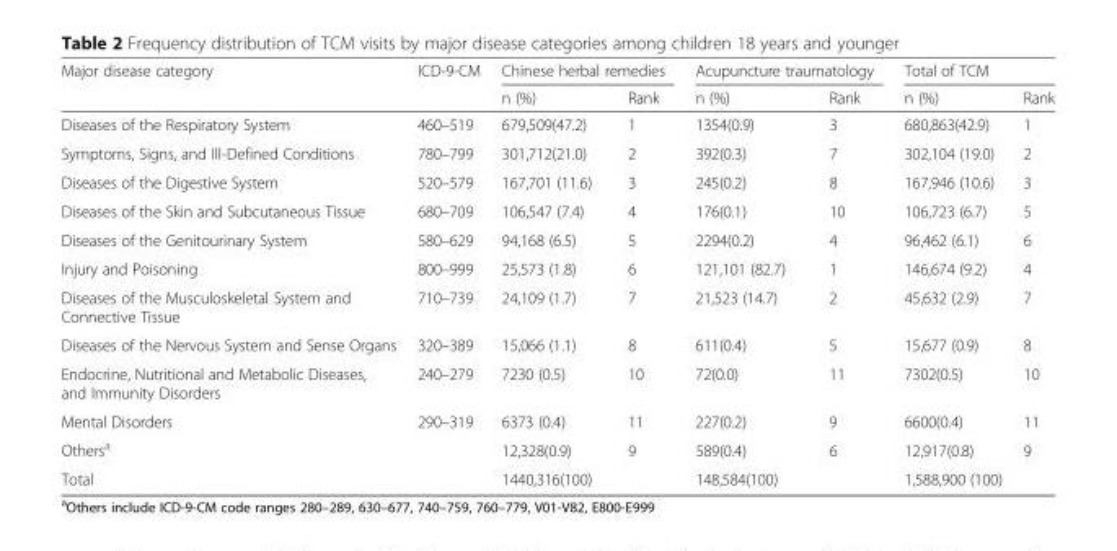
<table><thead><tr><td rowspan="2">Major disease category</td><td rowspan="2">ICD-9-CM</td><td colspan="2">Chinese herbal remedies</td><td colspan="2">Acupuncture traumatology</td><td colspan="2">Total of TCM</td></tr><tr><td>n (%)</td><td>Rank</td><td>n (%)</td><td>Rank</td><td>n (%)</td><td>Rank</td></tr></thead><tbody><tr><td>Diseases of the Respiratory System</td><td>460–519</td><td>679,509(47.2)</td><td>1</td><td>1354(0.9)</td><td>3</td><td>680,863(42.9)</td><td>1</td></tr><tr><td>Symptoms, Signs, and Ill-Defined Conditions</td><td>780–799</td><td>301,712(21.0)</td><td>2</td><td>392(0.3)</td><td>7</td><td>302,104 (19.0)</td><td>2</td></tr><tr><td>Diseases of the Digestive System</td><td>520–579</td><td>167,701 (11.6)</td><td>3</td><td>245(0.2)</td><td>8</td><td>167,946 (10.6)</td><td>3</td></tr><tr><td>Diseases of the Skin and Subcutaneous Tissue</td><td>680–709</td><td>106,547 (7.4)</td><td>4</td><td>176(0.1)</td><td>10</td><td>106,723 (6.7)</td><td>5</td></tr><tr><td>Diseases of the Genitourinary System</td><td>580–629</td><td>94,168 (6.5)</td><td>5</td><td>2294(0.2)</td><td>4</td><td>96,462 (6.1)</td><td>6</td></tr><tr><td>Injury and Poisoning</td><td>800–999</td><td>25,573 (1.8)</td><td>6</td><td>121,101 (82.7)</td><td>1</td><td>146,674 (9.2)</td><td>4</td></tr><tr><td>Diseases of the Musculoskeletal System and Connective Tissue</td><td>710–739</td><td>24,109 (1.7)</td><td>7</td><td>21,523 (14.7)</td><td>2</td><td>45,632 (2.9)</td><td>7</td></tr><tr><td>Diseases of the Nervous System and Sense Organs</td><td>320–389</td><td>15,066 (1.1)</td><td>8</td><td>611(0.4)</td><td>5</td><td>15,677 (0.9)</td><td>8</td></tr><tr><td>Endocrine, Nutritional and Metabolic Diseases, and Immunity Disorders</td><td>240–279</td><td>7230 (0.5)</td><td>10</td><td>72(0.0)</td><td>11</td><td>7302(0.5)</td><td>10</td></tr><tr><td>Mental Disorders</td><td>290–319</td><td>6373 (0.4)</td><td>11</td><td>227(0.2)</td><td>9</td><td>6600(0.4)</td><td>11</td></tr><tr><td>Others<sup>a</sup></td><td></td><td>12,328(0.9)</td><td>9</td><td>589(0.4)</td><td>6</td><td>12,917(0.8)</td><td>9</td></tr><tr><td>Total</td><td></td><td>1440,316(100)</td><td></td><td>148,584(100)</td><td></td><td>1,588,900 (100)</td><td></td></tr></tbody></table>